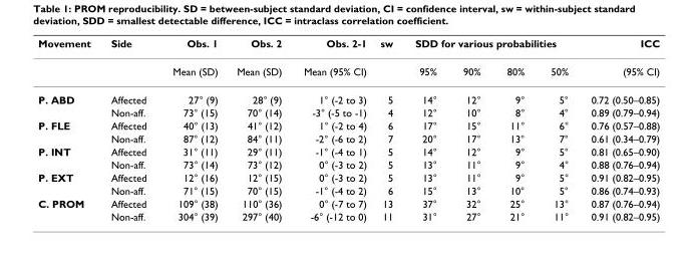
<table><thead><tr><td rowspan="2">Movement</td><td rowspan="2">Side</td><td rowspan="2">Obs. 1 Mean (SD)</td><td rowspan="2">Obs. 2 Mean (SD)</td><td rowspan="2">Obs. 2-1 Mean (95% CI)</td><td rowspan="2">sw</td><td colspan="4">SDD for various probabilities</td><td rowspan="2">ICC (95% CI)</td></tr><tr><td>95%</td><td>90%</td><td>80%</td><td>50%</td></tr></thead><tbody><tr><td rowspan="2">P. ABD</td><td>Affected</td><td>27° (9)</td><td>28° (9)</td><td>1° (-2 to 3)</td><td>5</td><td>14°</td><td>12°</td><td>9°</td><td>5°</td><td>0.72 (0.50–0.85)</td></tr><tr><td>Non-aff.</td><td>73° (15)</td><td>70° (14)</td><td>-3° (-5 to -1)</td><td>4</td><td>12°</td><td>10°</td><td>8°</td><td>4°</td><td>0.89 (0.79–0.94)</td></tr><tr><td rowspan="2">P. FLE</td><td>Affected</td><td>40° (13)</td><td>41° (12)</td><td>1° (-2 to 4)</td><td>6</td><td>17°</td><td>15°</td><td>11°</td><td>6°</td><td>0.76 (0.57–0.88)</td></tr><tr><td>Non-aff.</td><td>87° (12)</td><td>84° (11)</td><td>-2° (-6 to 2)</td><td>7</td><td>20°</td><td>17°</td><td>13°</td><td>7°</td><td>0.61 (0.34–0.79)</td></tr><tr><td rowspan="2">P. INT</td><td>Affected</td><td>31° (11)</td><td>29° (11)</td><td>-1° (-4 to 1)</td><td>5</td><td>14°</td><td>12°</td><td>9°</td><td>5°</td><td>0.81 (0.65–0.90)</td></tr><tr><td>Non-aff.</td><td>73° (14)</td><td>73° (12)</td><td>0° (-3 to 2)</td><td>5</td><td>13°</td><td>11°</td><td>9°</td><td>4°</td><td>0.88 (0.76–0.94)</td></tr><tr><td rowspan="2">P. EXT</td><td>Affected</td><td>12° (16)</td><td>12° (15)</td><td>0° (-3 to 2)</td><td>5</td><td>13°</td><td>11°</td><td>9°</td><td>5°</td><td>0.91 (0.82–0.95)</td></tr><tr><td>Non-aff.</td><td>71° (15)</td><td>70° (15)</td><td>-1° (-4 to 2)</td><td>6</td><td>15°</td><td>13°</td><td>10°</td><td>5°</td><td>0.86 (0.74–0.93)</td></tr><tr><td rowspan="2">C. PROM</td><td>Affected</td><td>109° (38)</td><td>110° (36)</td><td>0° (-7 to 7)</td><td>13</td><td>37°</td><td>32°</td><td>25°</td><td>13°</td><td>0.87 (0.76–0.94)</td></tr><tr><td>Non-aff.</td><td>304° (39)</td><td>297° (40)</td><td>-6° (-12 to 0)</td><td>11</td><td>31°</td><td>27°</td><td>21°</td><td>11°</td><td>0.91 (0.82–0.95)</td></tr></tbody></table>